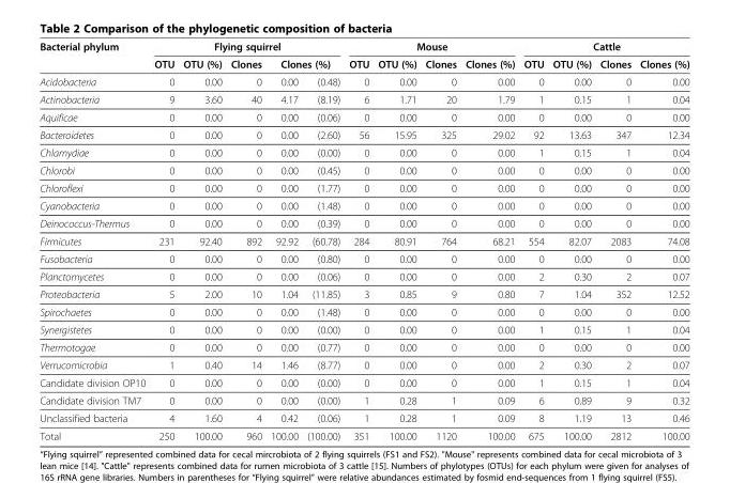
<table><thead><tr><td rowspan="3">Bacterial phylum Acidobacteria</td><td colspan="5">Flying squirrel</td><td colspan="4">Mouse</td><td colspan="4">Cattle</td></tr><tr><td rowspan="2">OTU 0</td><td rowspan="2">OTU (%) 0.00</td><td rowspan="2">Clones 0</td><td colspan="2">Clones (%)</td><td rowspan="2">OTU 0</td><td rowspan="2">OTU (%) 0.00</td><td rowspan="2">Clones 0</td><td rowspan="2">Clones (%) 0.00</td><td rowspan="2">OTU 0</td><td rowspan="2">OTU (%) 0.00</td><td rowspan="2">Clones 0</td><td rowspan="2">Clones (%) 0.00</td></tr><tr><td>0.00</td><td>(0.48)</td></tr></thead><tbody><tr><td>Actinobacteria</td><td>9</td><td>3.60</td><td>40</td><td>4.17</td><td>(8.19)</td><td>6</td><td>1.71</td><td>20</td><td>1.79</td><td>1</td><td>0.15</td><td>1</td><td>0.04</td></tr><tr><td>Aquificae</td><td>0</td><td>0.00</td><td>0</td><td>0.00</td><td>(0.06)</td><td>0</td><td>0.00</td><td>0</td><td>0.00</td><td>0</td><td>0.00</td><td>0</td><td>0.00</td></tr><tr><td>Bacteroidetes</td><td>0</td><td>0.00</td><td>0</td><td>0.00</td><td>(2.60)</td><td>56</td><td>15.95</td><td>325</td><td>29.02</td><td>92</td><td>13.63</td><td>347</td><td>12.34</td></tr><tr><td>Chlamydiae</td><td>0</td><td>0.00</td><td>0</td><td>0.00</td><td>(0.00)</td><td>0</td><td>0.00</td><td>0</td><td>0.00</td><td>1</td><td>0.15</td><td>1</td><td>0.04</td></tr><tr><td>Chlorobi</td><td>0</td><td>0.00</td><td>0</td><td>0.00</td><td>(0.45)</td><td>0</td><td>0.00</td><td>0</td><td>0.00</td><td>0</td><td>0.00</td><td>0</td><td>0.00</td></tr><tr><td>Chloroflexi</td><td>0</td><td>0.00</td><td>0</td><td>0.00</td><td>(1.77)</td><td>0</td><td>0.00</td><td>0</td><td>0.00</td><td>0</td><td>0.00</td><td>0</td><td>0.00</td></tr><tr><td>Cyanobacteria</td><td>0</td><td>0.00</td><td>0</td><td>0.00</td><td>(1.48)</td><td>0</td><td>0.00</td><td>0</td><td>0.00</td><td>0</td><td>0.00</td><td>0</td><td>0.00</td></tr><tr><td>Deinococcus-Thermus</td><td>0</td><td>0.00</td><td>0</td><td>0.00</td><td>(0.39)</td><td>0</td><td>0.00</td><td>0</td><td>0.00</td><td>0</td><td>0.00</td><td>0</td><td>0.00</td></tr><tr><td>Firmicutes</td><td>231</td><td>92.40</td><td>892</td><td>92.92</td><td>(60.78)</td><td>284</td><td>80.91</td><td>764</td><td>68.21</td><td>554</td><td>82.07</td><td>2083</td><td>74.08</td></tr><tr><td>Fusobacteria</td><td>0</td><td>0.00</td><td>0</td><td>0.00</td><td>(0.80)</td><td>0</td><td>0.00</td><td>0</td><td>0.00</td><td>0</td><td>0.00</td><td>0</td><td>0.00</td></tr><tr><td>Planctomycetes</td><td>0</td><td>0.00</td><td>0</td><td>0.00</td><td>(0.06)</td><td>0</td><td>0.00</td><td>0</td><td>0.00</td><td>2</td><td>0.30</td><td>2</td><td>0.07</td></tr><tr><td>Proteobacteria</td><td>5</td><td>2.00</td><td>10</td><td>1.04</td><td>(11.85)</td><td>3</td><td>0.85</td><td>9</td><td>0.80</td><td>7</td><td>1.04</td><td>352</td><td>12.52</td></tr><tr><td>Spirochaetes</td><td>0</td><td>0.00</td><td>0</td><td>0.00</td><td>(1.48)</td><td>0</td><td>0.00</td><td>0</td><td>0.00</td><td>0</td><td>0.00</td><td>0</td><td>0.00</td></tr><tr><td>Synergistetes</td><td>0</td><td>0.00</td><td>0</td><td>0.00</td><td>(0.00)</td><td>0</td><td>0.00</td><td>0</td><td>0.00</td><td>1</td><td>0.15</td><td>1</td><td>0.04</td></tr><tr><td>Thermotogae</td><td>0</td><td>0.00</td><td>0</td><td>0.00</td><td>(0.77)</td><td>0</td><td>0.00</td><td>0</td><td>0.00</td><td>0</td><td>0.00</td><td>0</td><td>0.00</td></tr><tr><td>Verrucomicrobia</td><td>1</td><td>0.40</td><td>14</td><td>1.46</td><td>(8.77)</td><td>0</td><td>0.00</td><td>0</td><td>0.00</td><td>2</td><td>0.30</td><td>2</td><td>0.07</td></tr><tr><td>Candidate division OP10</td><td>0</td><td>0.00</td><td>0</td><td>0.00</td><td>(0.00)</td><td>0</td><td>0.00</td><td>0</td><td>0.00</td><td>1</td><td>0.15</td><td>1</td><td>0.04</td></tr><tr><td>Candidate division TM7</td><td>0</td><td>0.00</td><td>0</td><td>0.00</td><td>(0.00)</td><td>1</td><td>0.28</td><td>1</td><td>0.09</td><td>6</td><td>0.89</td><td>9</td><td>0.32</td></tr><tr><td>Unclassified bacteria</td><td>4</td><td>1.60</td><td>4</td><td>0.42</td><td>(0.06)</td><td>1</td><td>0.28</td><td>1</td><td>0.09</td><td>8</td><td>1.19</td><td>13</td><td>0.46</td></tr><tr><td>Total</td><td>250</td><td>100.00</td><td>960</td><td>100.00</td><td>(100.00)</td><td>351</td><td>100.00</td><td>1120</td><td>100.00</td><td>675</td><td>100.00</td><td>2812</td><td>100.00</td></tr></tbody></table>